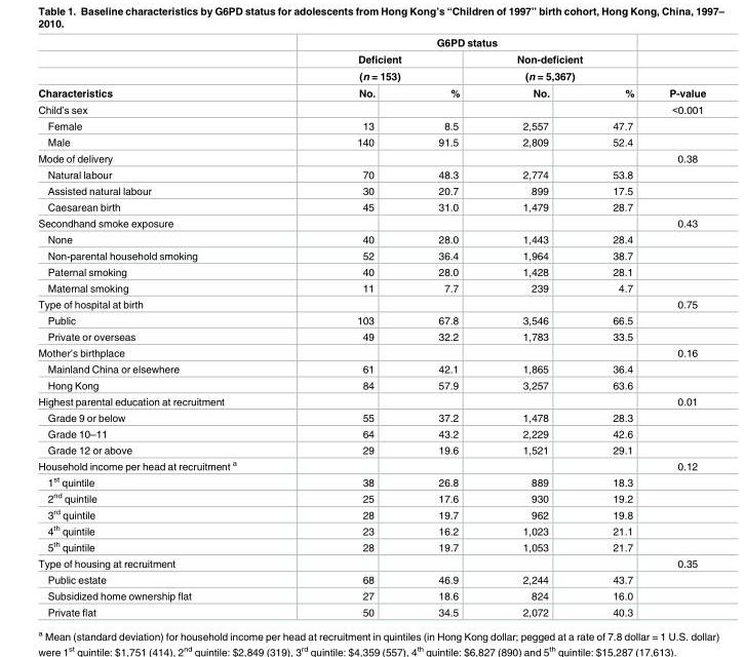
<table><thead><tr><td rowspan="4">Characteristics</td><td colspan="4">G6PD status</td><td rowspan="4">P-value</td></tr><tr><td rowspan="2" colspan="2">Deficient (n = 153)</td><td rowspan="2" colspan="2">Non-deficient (n = 5,367)</td></tr><tr></tr><tr><td>No.</td><td>%</td><td>No.</td><td>%</td></tr></thead><tbody><tr><td>Child’s sex</td><td></td><td></td><td></td><td></td><td>&lt;0.001</td></tr><tr><td>Female</td><td>13</td><td>8.5</td><td>2,557</td><td>47.7</td><td></td></tr><tr><td>Male</td><td>140</td><td>91.5</td><td>2,809</td><td>52.4</td><td></td></tr><tr><td>Mode of delivery</td><td></td><td></td><td></td><td></td><td>0.38</td></tr><tr><td>Natural labour</td><td>70</td><td>48.3</td><td>2,774</td><td>53.8</td><td></td></tr><tr><td>Assisted natural labour</td><td>30</td><td>20.7</td><td>899</td><td>17.5</td><td></td></tr><tr><td>Caesarean birth</td><td>45</td><td>31.0</td><td>1,479</td><td>28.7</td><td></td></tr><tr><td>Secondhand smoke exposure</td><td></td><td></td><td></td><td></td><td>0.43</td></tr><tr><td>None</td><td>40</td><td>28.0</td><td>1,443</td><td>28.4</td><td></td></tr><tr><td>Non-parental household smoking</td><td>52</td><td>36.4</td><td>1,964</td><td>38.7</td><td></td></tr><tr><td>Paternal smoking</td><td>40</td><td>28.0</td><td>1,428</td><td>28.1</td><td></td></tr><tr><td>Maternal smoking</td><td>11</td><td>7.7</td><td>239</td><td>4.7</td><td></td></tr><tr><td>Type of hospital at birth</td><td></td><td></td><td></td><td></td><td>0.75</td></tr><tr><td>Public</td><td>103</td><td>67.8</td><td>3,546</td><td>66.5</td><td></td></tr><tr><td>Private or overseas</td><td>49</td><td>32.2</td><td>1,783</td><td>33.5</td><td></td></tr><tr><td>Mother’s birthplace</td><td></td><td></td><td></td><td></td><td>0.16</td></tr><tr><td>Mainland China or elsewhere</td><td>61</td><td>42.1</td><td>1,865</td><td>36.4</td><td></td></tr><tr><td>Hong Kong</td><td>84</td><td>57.9</td><td>3,257</td><td>63.6</td><td></td></tr><tr><td>Highest parental education at recruitment</td><td></td><td></td><td></td><td></td><td>0.01</td></tr><tr><td>Grade 9 or below</td><td>55</td><td>37.2</td><td>1,478</td><td>28.3</td><td></td></tr><tr><td>Grade 10–11</td><td>64</td><td>43.2</td><td>2,229</td><td>42.6</td><td></td></tr><tr><td>Grade 12 or above</td><td>29</td><td>19.6</td><td>1,521</td><td>29.1</td><td></td></tr><tr><td>Household income per head at recruitment <sup>a</sup></td><td></td><td></td><td></td><td></td><td>0.12</td></tr><tr><td>1<sup>st</sup> quintile</td><td>38</td><td>26.8</td><td>889</td><td>18.3</td><td></td></tr><tr><td>2<sup>nd</sup> quintile</td><td>25</td><td>17.6</td><td>930</td><td>19.2</td><td></td></tr><tr><td>3<sup>rd</sup> quintile</td><td>28</td><td>19.7</td><td>962</td><td>19.8</td><td></td></tr><tr><td>4<sup>th</sup> quintile</td><td>23</td><td>16.2</td><td>1,023</td><td>21.1</td><td></td></tr><tr><td>5<sup>th</sup> quintile</td><td>28</td><td>19.7</td><td>1,053</td><td>21.7</td><td></td></tr><tr><td>Type of housing at recruitment</td><td></td><td></td><td></td><td></td><td>0.35</td></tr><tr><td>Public estate</td><td>68</td><td>46.9</td><td>2,244</td><td>43.7</td><td></td></tr><tr><td>Subsidized home ownership flat</td><td>27</td><td>18.6</td><td>824</td><td>16.0</td><td></td></tr><tr><td>Private flat</td><td>50</td><td>34.5</td><td>2,072</td><td>40.3</td><td></td></tr></tbody></table>